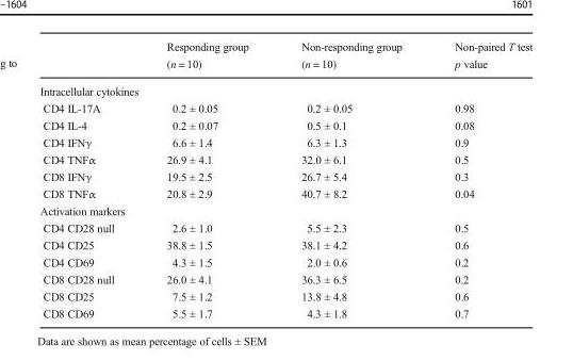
<table><thead><tr><td></td><td>Responding group (n = 10)</td><td>Non-responding group (n = 10)</td><td>Non-paired T test p value</td></tr></thead><tbody><tr><td colspan="4">Intracellular cytokines</td></tr><tr><td>CD4 IL-17A</td><td>0.2 ± 0.05</td><td>0.2 ± 0.05</td><td>0.98</td></tr><tr><td>CD4 IL-4</td><td>0.2 ± 0.07</td><td>0.5 ± 0.1</td><td>0.08</td></tr><tr><td>CD4 IFNγ</td><td>6.6 ± 1.4</td><td>6.3 ± 1.3</td><td>0.9</td></tr><tr><td>CD4 TNFα</td><td>26.9 ± 4.1</td><td>32.0 ± 6.1</td><td>0.5</td></tr><tr><td>CD8 IFNγ</td><td>19.5 ± 2.5</td><td>26.7 ± 5.4</td><td>0.3</td></tr><tr><td>CD8 TNFα</td><td>20.8 ± 2.9</td><td>40.7 ± 8.2</td><td>0.04</td></tr><tr><td colspan="4">Activation markers</td></tr><tr><td>CD4 CD28 null</td><td>2.6 ± 1.0</td><td>5.5 ± 2.3</td><td>0.5</td></tr><tr><td>CD4 CD25</td><td>38.8 ± 1.5</td><td>38.1 ± 4.2</td><td>0.6</td></tr><tr><td>CD4 CD69</td><td>4.3 ± 1.5</td><td>2.0 ± 0.6</td><td>0.2</td></tr><tr><td>CD8 CD28 null</td><td>26.0 ± 4.1</td><td>36.3 ± 6.5</td><td>0.2</td></tr><tr><td>CD8 CD25</td><td>7.5 ± 1.2</td><td>13.8 ± 4.8</td><td>0.6</td></tr><tr><td>CD8 CD69</td><td>5.5 ± 1.7</td><td>4.3 ± 1.8</td><td>0.7</td></tr></tbody></table>